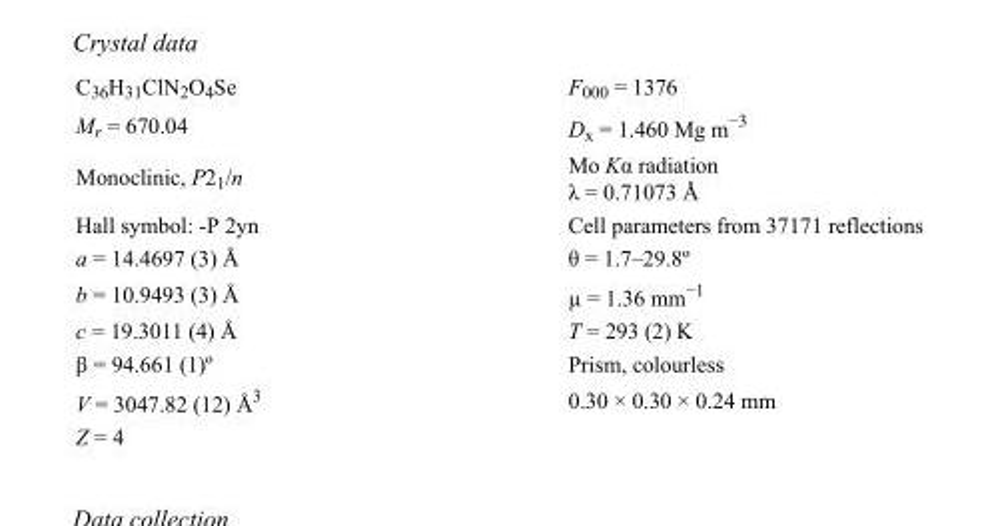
<table><tbody><tr><td>C<sub>36</sub>H<sub>31</sub>ClN<sub>2</sub>O<sub>4</sub>Se</td><td>F<sub>000</sub> = 1376</td></tr><tr><td>M<sub>r</sub> = 670.04</td><td>D<sub>x</sub> = 1.460 Mg m<sup>−3</sup></td></tr><tr><td>Monoclinic, P2<sub>1</sub>/n</td><td>Mo Kα radiation λ = 0.71073 Å</td></tr><tr><td>Hall symbol: -P 2yn</td><td>Cell parameters from 37171 reflections</td></tr><tr><td>a = 14.4697 (3) Å</td><td>θ = 1.7–29.8º</td></tr><tr><td>b = 10.9493 (3) Å</td><td>µ = 1.36 mm<sup>−1</sup></td></tr><tr><td>c = 19.3011 (4) Å</td><td>T = 293 (2) K</td></tr><tr><td>β = 94.661 (1)º</td><td>Prism, colourless</td></tr><tr><td>V = 3047.82 (12) Å<sup>3</sup></td><td>0.30 × 0.30 × 0.24 mm</td></tr><tr><td>Z = 4</td><td></td></tr></tbody></table>